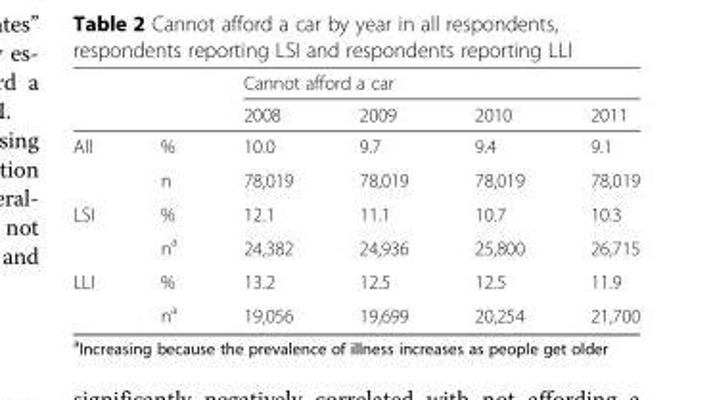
<table><thead><tr><td rowspan="2"></td><td rowspan="2"></td><td colspan="4">Cannot afford a car</td></tr><tr><td>2008</td><td>2009</td><td>2010</td><td>2011</td></tr></thead><tbody><tr><td rowspan="2">All</td><td>%</td><td>10.0</td><td>9.7</td><td>9.4</td><td>9.1</td></tr><tr><td>n</td><td>78,019</td><td>78,019</td><td>78,019</td><td>78,019</td></tr><tr><td rowspan="2">LSI</td><td>%</td><td>12.1</td><td>11.1</td><td>10.7</td><td>10.3</td></tr><tr><td>n<sup>a</sup></td><td>24,382</td><td>24,936</td><td>25,800</td><td>26,715</td></tr><tr><td rowspan="2">LLI</td><td>%</td><td>13.2</td><td>12.5</td><td>12.5</td><td>11.9</td></tr><tr><td>n<sup>a</sup></td><td>19,056</td><td>19,699</td><td>20,254</td><td>21,700</td></tr></tbody></table>